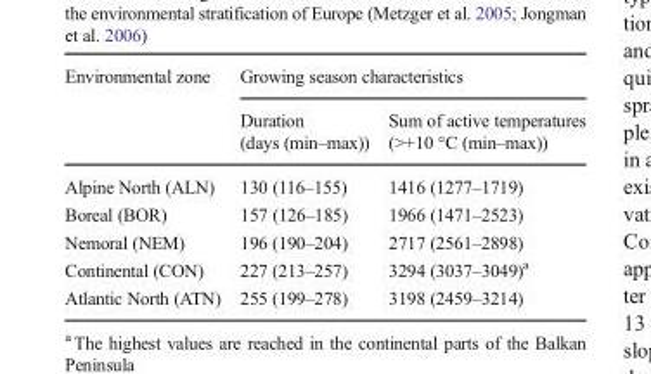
<table><thead><tr><td rowspan="3">Environmental zone</td><td colspan="2">Growing season characteristics</td></tr><tr><td rowspan="2">Duration (days (min–max))</td><td rowspan="2">Sum of active temperatures (&gt;+10 °C (min–max))</td></tr><tr></tr></thead><tbody><tr><td>Alpine North (ALN)</td><td>130 (116–155)</td><td>1416 (1277–1719)</td></tr><tr><td>Boreal (BOR)</td><td>157 (126–185)</td><td>1966 (1471–2523)</td></tr><tr><td>Nemoral (NEM)</td><td>196 (190–204)</td><td>2717 (2561–2898)</td></tr><tr><td>Continental (CON)</td><td>227 (213–257)</td><td>3294 (3037–3049)<sup>a</sup></td></tr><tr><td>Atlantic North (ATN)</td><td>255 (199–278)</td><td>3198 (2459–3214)</td></tr></tbody></table>